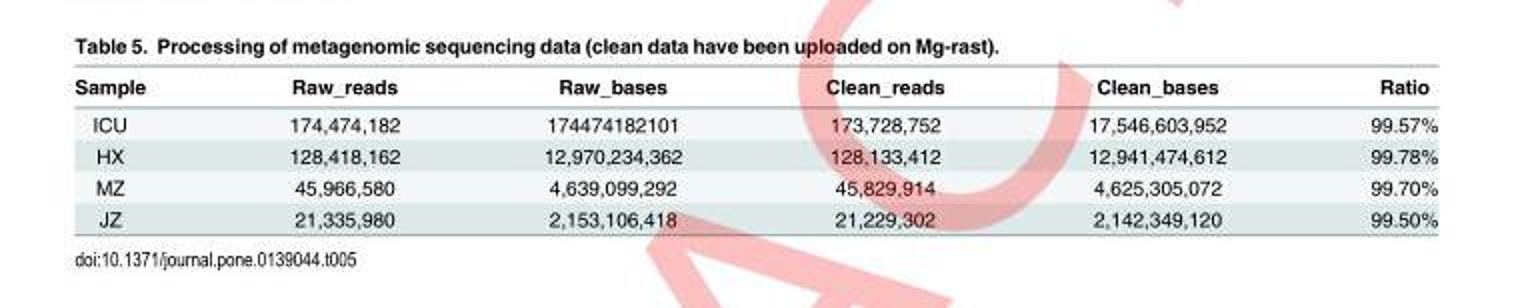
<table><thead><tr><td>Sample</td><td>Raw_reads</td><td>Raw_bases</td><td>Clean_reads</td><td>Clean_bases</td><td>Ratio</td></tr></thead><tbody><tr><td>ICU</td><td>174,474,182</td><td>174474182101</td><td>173,728,752</td><td>17,546,603,952</td><td>99.57%</td></tr><tr><td>HX</td><td>128,418,162</td><td>12,970,234,362</td><td>128,133,412</td><td>12,941,474,612</td><td>99.78%</td></tr><tr><td>MZ</td><td>45,966,580</td><td>4,639,099,292</td><td>45,829,914</td><td>4,625,305,072</td><td>99.70%</td></tr><tr><td>JZ</td><td>21,335,980</td><td>2,153,106,418</td><td>21,229,302</td><td>2,142,349,120</td><td>99.50%</td></tr></tbody></table>